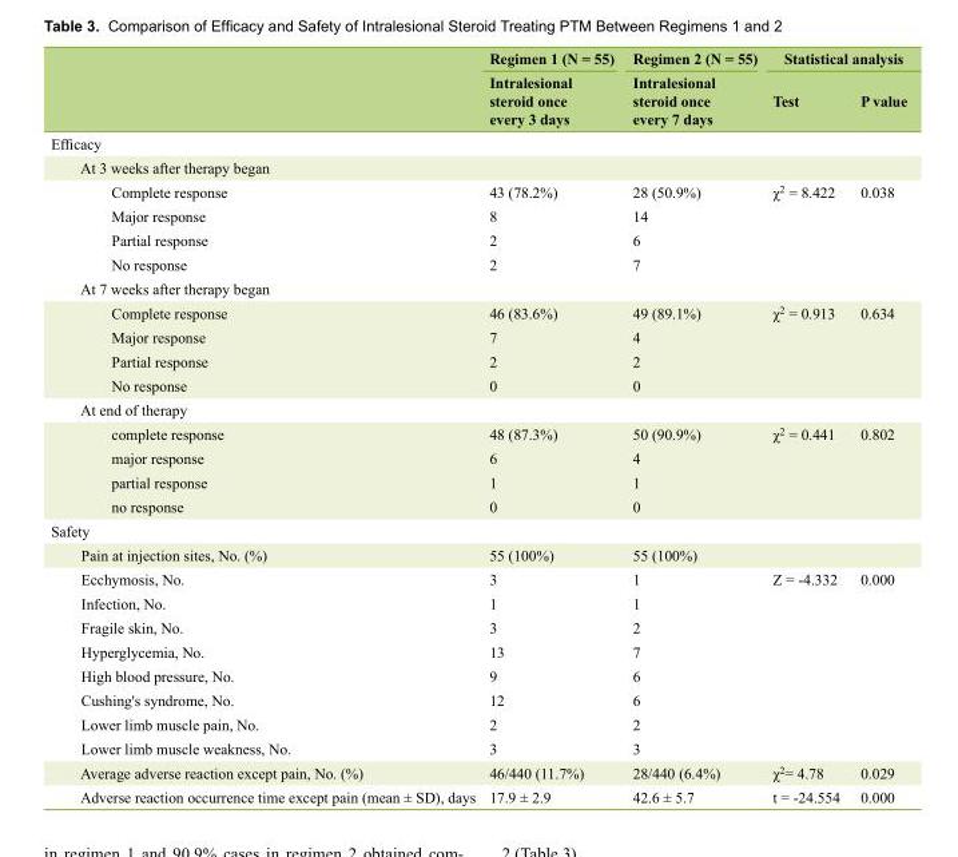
<table><thead><tr><td rowspan="2"></td><td rowspan="2">Regimen 1 (N = 55) Intralesional steroid once every 3 days</td><td rowspan="2">Regimen 2 (N = 55) Intralesional steroid once every 7 days</td><td colspan="2">Statistical analysis</td></tr><tr><td>Test</td><td>P value</td></tr></thead><tbody><tr><td colspan="5">Efficacy</td></tr><tr><td colspan="5">At 3 weeks after therapy began</td></tr><tr><td>Complete response</td><td>43 (78.2%)</td><td>28 (50.9%)</td><td rowspan="4">χ<sup>2</sup> = 8.422</td><td rowspan="4">0.038</td></tr><tr><td>Major response</td><td>8</td><td>14</td></tr><tr><td>Partial response</td><td>2</td><td>6</td></tr><tr><td>No response</td><td>2</td><td>7</td></tr><tr><td colspan="5">At 7 weeks after therapy began</td></tr><tr><td>Complete response</td><td>46 (83.6%)</td><td>49 (89.1%)</td><td rowspan="4">χ<sup>2</sup> = 0.913</td><td rowspan="4">0.634</td></tr><tr><td>Major response</td><td>7</td><td>4</td></tr><tr><td>Partial response</td><td>2</td><td>2</td></tr><tr><td>No response</td><td>0</td><td>0</td></tr><tr><td colspan="5">At end of therapy</td></tr><tr><td>complete response</td><td>48 (87.3%)</td><td>50 (90.9%)</td><td rowspan="4">χ<sup>2</sup> = 0.441</td><td rowspan="4">0.802</td></tr><tr><td>major response</td><td>6</td><td>4</td></tr><tr><td>partial response</td><td>1</td><td>1</td></tr><tr><td>no response</td><td>0</td><td>0</td></tr><tr><td colspan="5">Safety</td></tr><tr><td>Pain at injection sites, No. (%)</td><td>55 (100%)</td><td>55 (100%)</td><td></td><td></td></tr><tr><td>Ecchymosis, No.</td><td>3</td><td>1</td><td rowspan="8">Z = -4.332</td><td rowspan="8">0.000</td></tr><tr><td>Infection, No.</td><td>1</td><td>1</td></tr><tr><td>Fragile skin, No.</td><td>3</td><td>2</td></tr><tr><td>Hyperglycemia, No.</td><td>13</td><td>7</td></tr><tr><td>High blood pressure, No.</td><td>9</td><td>6</td></tr><tr><td>Cushing&#x27;s syndrome, No.</td><td>12</td><td>6</td></tr><tr><td>Lower limb muscle pain, No.</td><td>2</td><td>2</td></tr><tr><td>Lower limb muscle weakness, No.</td><td>3</td><td>3</td></tr><tr><td>Average adverse reaction except pain, No. (%)</td><td>46/440 (11.7%)</td><td>28/440 (6.4%)</td><td>χ<sup>2</sup>= 4.78</td><td>0.029</td></tr><tr><td>Adverse reaction occurrence time except pain (mean ± SD), days</td><td>17.9 ± 2.9</td><td>42.6 ± 5.7</td><td>t = -24.554</td><td>0.000</td></tr></tbody></table>